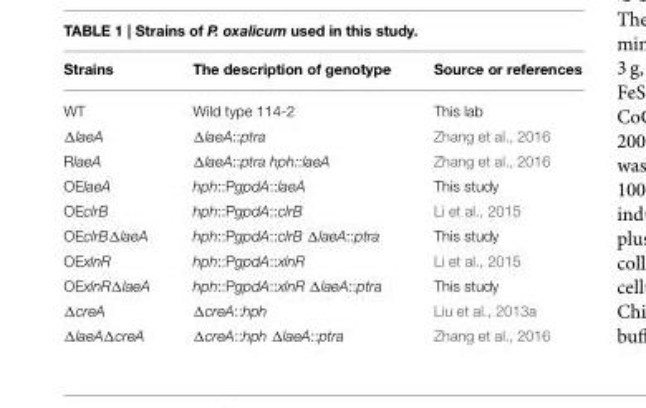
<table><thead><tr><td>Strains</td><td>The description of genotype</td><td>Source or references</td></tr></thead><tbody><tr><td>WT</td><td>Wild type 114-2</td><td>This lab</td></tr><tr><td>ΔlaeA</td><td>ΔlaeA::ptra</td><td>Zhang et al., 2016</td></tr><tr><td>RlaeA</td><td>ΔlaeA::ptra hph::laeA</td><td>Zhang et al., 2016</td></tr><tr><td>OElaeA</td><td>hph::PgpdA::laeA</td><td>This study</td></tr><tr><td>OEclrB</td><td>hph::PgpdA::clrB</td><td>Li et al., 2015</td></tr><tr><td>OEclrBΔlaeA</td><td>hph::PgpdA::clrB ΔlaeA::ptra</td><td>This study</td></tr><tr><td>OExlnR</td><td>hph::PgpdA::xlnR</td><td>Li et al., 2015</td></tr><tr><td>OExlnRΔlaeA</td><td>hph::PgpdA::xlnR ΔlaeA::ptra</td><td>This study</td></tr><tr><td>ΔcreA</td><td>ΔcreA::hph</td><td>Liu et al., 2013a</td></tr><tr><td>ΔlaeAΔcreA</td><td>ΔcreA::hph ΔlaeA::ptra</td><td>Zhang et al., 2016</td></tr></tbody></table>